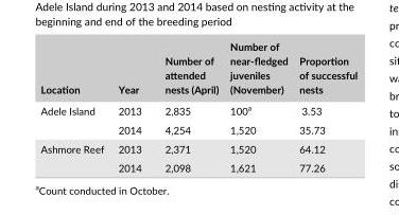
<table><thead><tr><td>Location</td><td>Year</td><td>Number of attended nests (April)</td><td>Number of near- fledged juveniles (November)</td><td>Proportion of successful nests</td></tr></thead><tbody><tr><td rowspan="2">Adele Island</td><td>2013</td><td>2,835</td><td>100<sup>a</sup></td><td>3.53</td></tr><tr><td>2014</td><td>4,254</td><td>1,520</td><td>35.73</td></tr><tr><td rowspan="2">Ashmore Reef</td><td>2013</td><td>2,371</td><td>1,520</td><td>64.12</td></tr><tr><td>2014</td><td>2,098</td><td>1,621</td><td>77.26</td></tr></tbody></table>